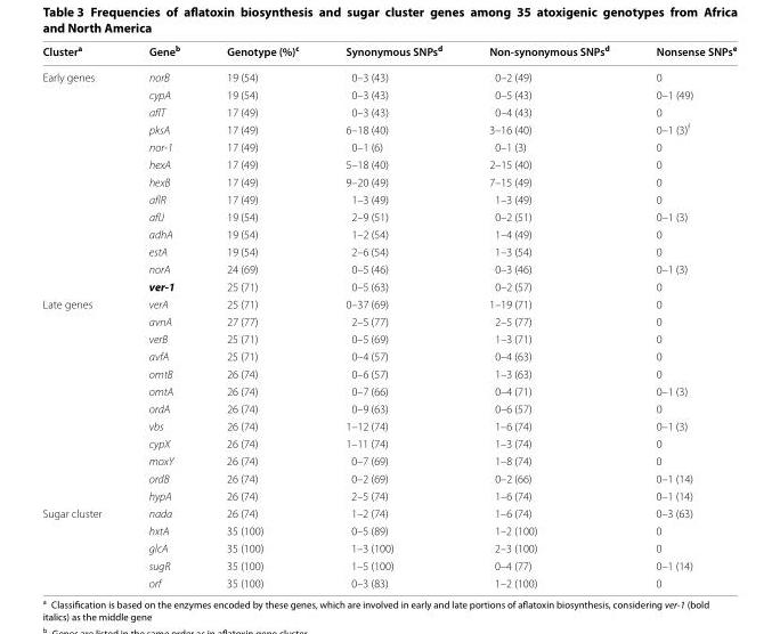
<table><thead><tr><td>Cluster<sup>a</sup></td><td>Gene<sup>b</sup></td><td>Genotype (%)<sup>c</sup></td><td>Synonymous SNPs<sup>d</sup></td><td>Non‑synonymous SNPs<sup>d</sup></td><td>Nonsense SNPs<sup>e</sup></td></tr></thead><tbody><tr><td rowspan="13">Early genes</td><td>norB</td><td>19 (54)</td><td>0–3 (43)</td><td>0–2 (49)</td><td>0</td></tr><tr><td>cypA</td><td>19 (54)</td><td>0–3 (43)</td><td>0–5 (43)</td><td>0–1 (49)</td></tr><tr><td>aflT</td><td>17 (49)</td><td>0–3 (43)</td><td>0–4 (43)</td><td>0</td></tr><tr><td>pksA</td><td>17 (49)</td><td>6–18 (40)</td><td>3–16 (40)</td><td>0–1 (3)<sup>f</sup></td></tr><tr><td>nor-1</td><td>17 (49)</td><td>0–1 (6)</td><td>0–1 (3)</td><td>0</td></tr><tr><td>hexA</td><td>17 (49)</td><td>5–18 (40)</td><td>2–15 (40)</td><td>0</td></tr><tr><td>hexB</td><td>17 (49)</td><td>9–20 (49)</td><td>7–15 (49)</td><td>0</td></tr><tr><td>aflR</td><td>17 (49)</td><td>1–3 (49)</td><td>1–3 (49)</td><td>0</td></tr><tr><td>aflJ</td><td>19 (54)</td><td>2–9 (51)</td><td>0–2 (51)</td><td>0–1 (3)</td></tr><tr><td>adhA</td><td>19 (54)</td><td>1–2 (54)</td><td>1–4 (49)</td><td>0</td></tr><tr><td>estA</td><td>19 (54)</td><td>2–6 (54)</td><td>1–3 (54)</td><td>0</td></tr><tr><td>norA</td><td>24 (69)</td><td>0–5 (46)</td><td>0–3 (46)</td><td>0–1 (3)</td></tr><tr><td>ver-1</td><td>25 (71)</td><td>0–5 (63)</td><td>0–2 (57)</td><td>0</td></tr><tr><td rowspan="12">Late genes</td><td>verA</td><td>25 (71)</td><td>0–37 (69)</td><td>1–19 (71)</td><td>0</td></tr><tr><td>avnA</td><td>27 (77)</td><td>2–5 (77)</td><td>2–5 (77)</td><td>0</td></tr><tr><td>verB</td><td>25 (71)</td><td>0–5 (69)</td><td>1–3 (71)</td><td>0</td></tr><tr><td>avfA</td><td>25 (71)</td><td>0–4 (57)</td><td>0–4 (63)</td><td>0</td></tr><tr><td>omtB</td><td>26 (74)</td><td>0–6 (57)</td><td>1–3 (63)</td><td>0</td></tr><tr><td>omtA</td><td>26 (74)</td><td>0–7 (66)</td><td>0–4 (71)</td><td>0–1 (3)</td></tr><tr><td>ordA</td><td>26 (74)</td><td>0–9 (63)</td><td>0–6 (57)</td><td>0</td></tr><tr><td>vbs</td><td>26 (74)</td><td>1–12 (74)</td><td>1–6 (74)</td><td>0–1 (3)</td></tr><tr><td>cypX</td><td>26 (74)</td><td>1–11 (74)</td><td>1–3 (74)</td><td>0</td></tr><tr><td>moxY</td><td>26 (74)</td><td>0–7 (69)</td><td>1–8 (74)</td><td>0</td></tr><tr><td>ordB</td><td>26 (74)</td><td>0–2 (69)</td><td>0–2 (66)</td><td>0–1 (14)</td></tr><tr><td>hypA</td><td>26 (74)</td><td>2–5 (74)</td><td>1–6 (74)</td><td>0–1 (14)</td></tr><tr><td rowspan="5">Sugar cluster</td><td>nada</td><td>26 (74)</td><td>1–2 (74)</td><td>1–6 (74)</td><td>0–3 (63)</td></tr><tr><td>hxtA</td><td>35 (100)</td><td>0–5 (89)</td><td>1–2 (100)</td><td>0</td></tr><tr><td>glcA</td><td>35 (100)</td><td>1–3 (100)</td><td>2–3 (100)</td><td>0</td></tr><tr><td>sugR</td><td>35 (100)</td><td>1–5 (100)</td><td>0–4 (77)</td><td>0–1 (14)</td></tr><tr><td>orf</td><td>35 (100)</td><td>0–3 (83)</td><td>1–2 (100)</td><td>0</td></tr></tbody></table>